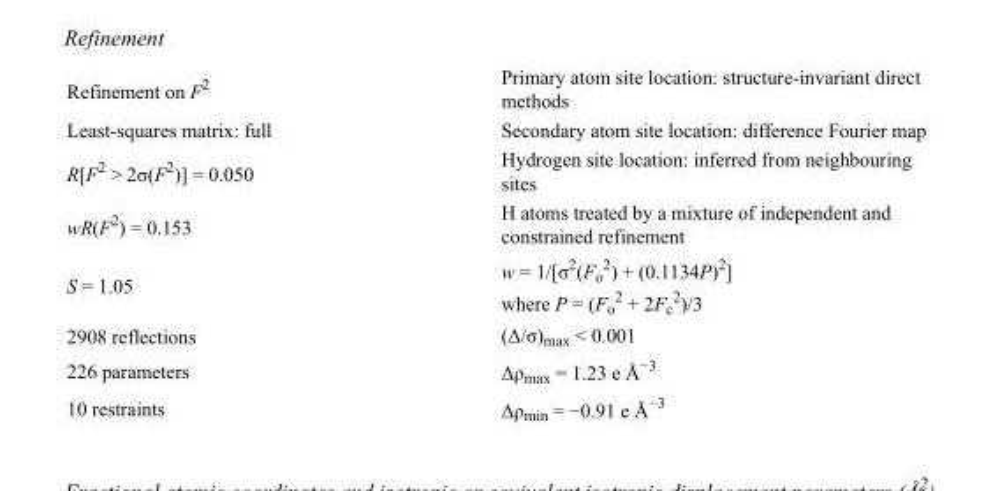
<table><tbody><tr><td>Refinement on F<sup>2</sup></td><td>Primary atom site location: structure-invariant direct methods</td></tr><tr><td>Least-squares matrix: full</td><td>Secondary atom site location: difference Fourier map</td></tr><tr><td>R[F<sup>2</sup> &gt; 2σ(F<sup>2</sup>)] = 0.050</td><td>Hydrogen site location: inferred from neighbouring sites</td></tr><tr><td>wR(F<sup>2</sup>) = 0.153</td><td>H atoms treated by a mixture of independent and constrained refinement</td></tr><tr><td>S = 1.05</td><td>w = 1/[σ<sup>2</sup>(F<sub>o</sub> <sup>2</sup>) + (0.1134P)<sup>2</sup>] where P = (F<sub>o</sub> <sup>2</sup> + 2F<sub>c</sub> <sup>2</sup>)/3</td></tr><tr><td>2908 reflections</td><td>(Δ/σ)<sub>max</sub> &lt; 0.001</td></tr><tr><td>226 parameters</td><td>Δρ<sub>max</sub> = 1.23 e Å<sup>−3</sup></td></tr><tr><td>10 restraints</td><td>Δρ<sub>min</sub> = −0.91 e Å<sup>−3</sup></td></tr></tbody></table>